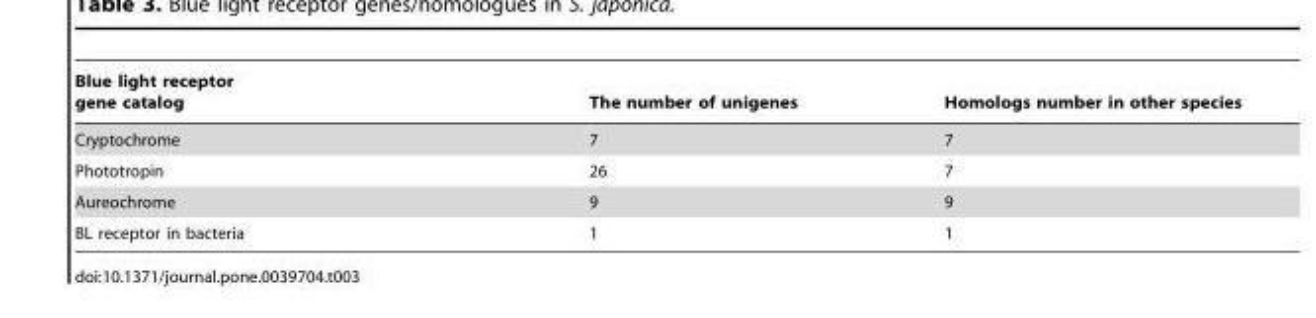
<table><thead><tr><td>Blue light receptor gene catalog</td><td>The number of unigenes</td><td>Homologs number in other species</td></tr></thead><tbody><tr><td>Cryptochrome</td><td>7</td><td>7</td></tr><tr><td>Phototropin</td><td>26</td><td>7</td></tr><tr><td>Aureochrome</td><td>9</td><td>9</td></tr><tr><td>BL receptor in bacteria</td><td>1</td><td>1</td></tr></tbody></table>